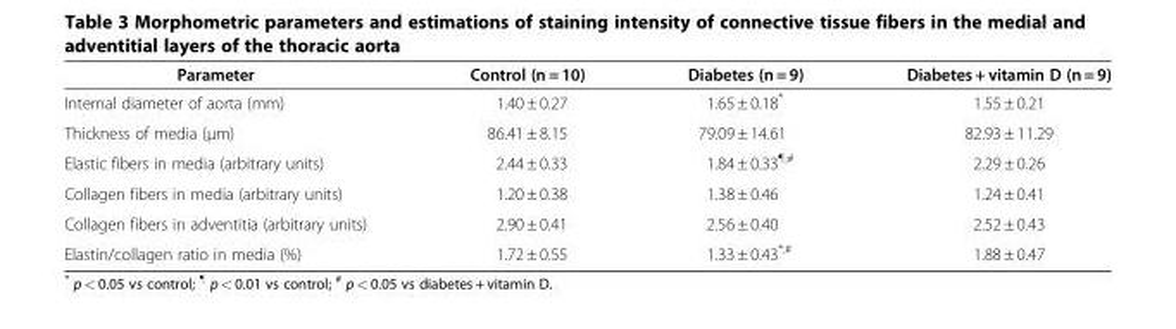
<table><thead><tr><td>Parameter</td><td>Control (n = 10)</td><td>Diabetes (n = 9)</td><td>Diabetes + vitamin D (n = 9)</td></tr></thead><tbody><tr><td>Internal diameter of aorta (mm)</td><td>1.40 ± 0.27</td><td>1.65 ± 0.18*</td><td>1.55 ± 0.21</td></tr><tr><td>Thickness of media (μm)</td><td>86.41 ± 8.15</td><td>79.09 ± 14.61</td><td>82.93 ± 11.29</td></tr><tr><td>Elastic fibers in media (arbitrary units)</td><td>2.44 ± 0.33</td><td>1.84 ± 0.33<sup>¶;#</sup></td><td>2.29 ± 0.26</td></tr><tr><td>Collagen fibers in media (arbitrary units)</td><td>1.20 ± 0.38</td><td>1.38 ± 0.46</td><td>1.24 ± 0.41</td></tr><tr><td>Collagen fibers in adventitia (arbitrary units)</td><td>2.90 ± 0.41</td><td>2.56 ± 0.40</td><td>2.52 ± 0.43</td></tr><tr><td>Elastin/collagen ratio in media (%)</td><td>1.72 ± 0.55</td><td>1.33 ± 0.43<sup>*;#</sup></td><td>1.88 ± 0.47</td></tr></tbody></table>